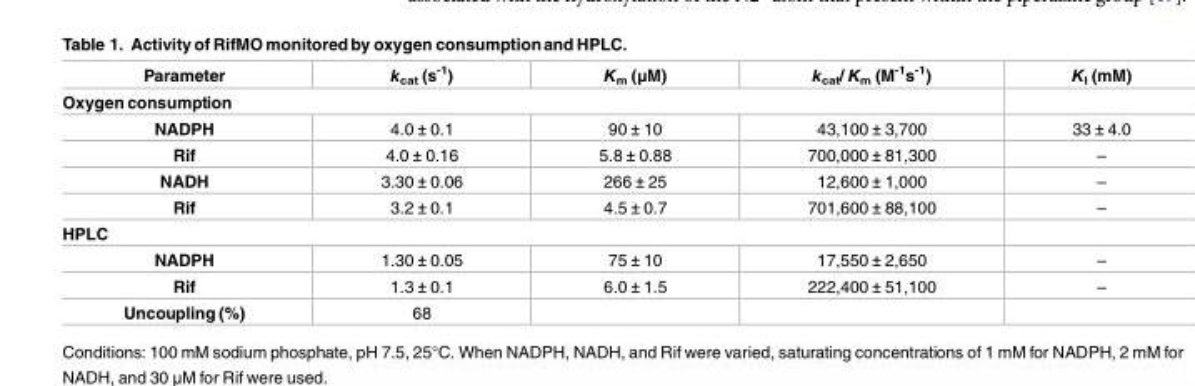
<table><thead><tr><td>Parameter</td><td>k<sub>cat</sub> (s<sup>-1</sup>)</td><td>K<sub>m</sub> (μM)</td><td>k<sub>cat</sub>/ K<sub>m</sub> (M<sup>-1</sup>s<sup>-1</sup>)</td><td>K<sub>I</sub> (mM)</td></tr></thead><tbody><tr><td colspan="5">Oxygen consumption</td></tr><tr><td>NADPH</td><td>4.0 ± 0.1</td><td>90 ± 10</td><td>43,100 ± 3,700</td><td>33 ± 4.0</td></tr><tr><td>Rif</td><td>4.0 ± 0.16</td><td>5.8 ± 0.88</td><td>700,000 ± 81,300</td><td>–</td></tr><tr><td>NADH</td><td>3.30 ± 0.06</td><td>266 ± 25</td><td>12,600 ± 1,000</td><td>–</td></tr><tr><td>Rif</td><td>3.2 ± 0.1</td><td>4.5 ± 0.7</td><td>701,600 ± 88,100</td><td>–</td></tr><tr><td colspan="5">HPLC</td></tr><tr><td>NADPH</td><td>1.30 ± 0.05</td><td>75 ± 10</td><td>17,550 ± 2,650</td><td>–</td></tr><tr><td>Rif</td><td>1.3 ± 0.1</td><td>6.0 ± 1.5</td><td>222,400 ± 51,100</td><td>–</td></tr><tr><td>Uncoupling (%)</td><td>68</td><td></td><td></td><td></td></tr></tbody></table>